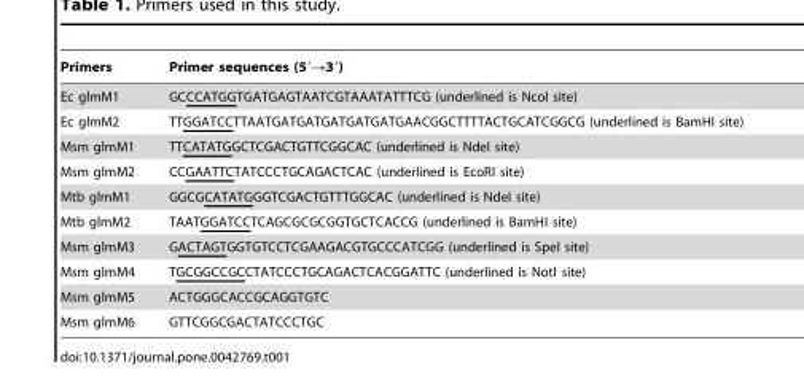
<table><thead><tr><td>Primers</td><td>Primer sequences (5′→3′)</td></tr></thead><tbody><tr><td>Ec glmM1</td><td>GCCCATGGTGATGAGTAATCGTAAATATTTCG (underlined is NcoI site)</td></tr><tr><td>Ec glmM2</td><td>TTGGATCCTTAATGATGATGATGATGATGAACGGCTTTTACTGCATCGGCG (underlined is BamHI site)</td></tr><tr><td>Msm glmM1</td><td>TTCATATGGCTCGACTGTTCGGCAC (underlined is NdeI site)</td></tr><tr><td>Msm glmM2</td><td>CCGAATTCTATCCCTGCAGACTCAC (underlined is EcoRI site)</td></tr><tr><td>Mtb glmM1</td><td>GGCGCATATGGGTCGACTGTTTGGCAC (underlined is NdeI site)</td></tr><tr><td>Mtb glmM2</td><td>TAATGGATCCTCAGCGCGCGGTGCTCACCG (underlined is BamHI site)</td></tr><tr><td>Msm glmM3</td><td>GACTAGTGGTGTCCTCGAAGACGTGCCCATCGG (underlined is SpeI site)</td></tr><tr><td>Msm glmM4</td><td>TGCGGCCGCCTATCCCTGCAGACTCACGGATTC (underlined is NotI site)</td></tr><tr><td>Msm glmM5</td><td>ACTGGGCACCGCAGGTGTC</td></tr><tr><td>Msm glmM6</td><td>GTTCGGCGACTATCCCTGC</td></tr></tbody></table>